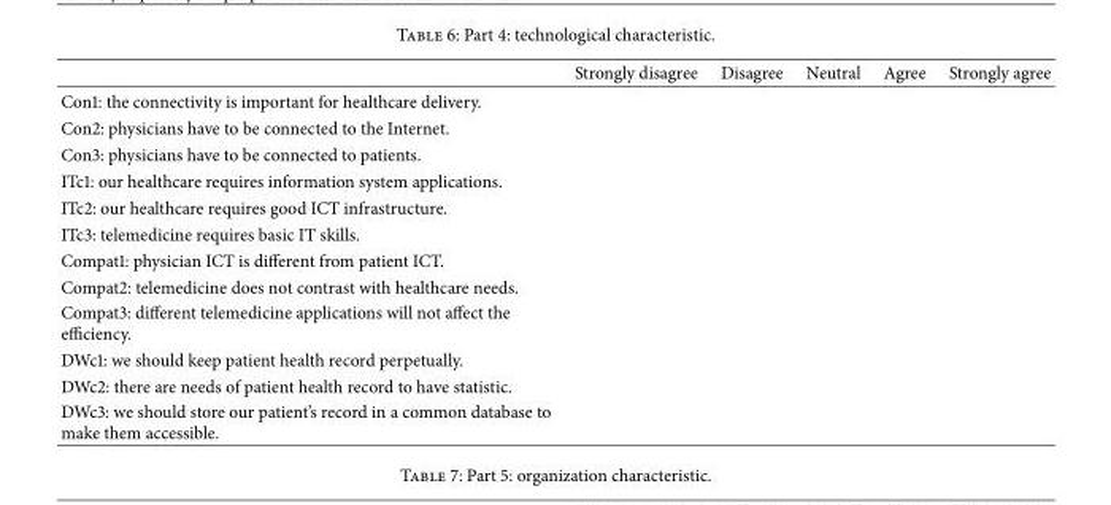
<table><thead><tr><td></td><td>Strongly disagree</td><td>Disagree</td><td>Neutral</td><td>Agree</td><td>Strongly agree</td></tr></thead><tbody><tr><td colspan="6">Con1: the connectivity is important for healthcare delivery.</td></tr><tr><td colspan="6">Con2: physicians have to be connected to the Internet.</td></tr><tr><td colspan="6">Con3: physicians have to be connected to patients.</td></tr><tr><td colspan="6">ITc1: our healthcare requires information system applications.</td></tr><tr><td colspan="6">ITc2: our healthcare requires good ICT infrastructure.</td></tr><tr><td colspan="6">ITc3: telemedicine requires basic IT skills.</td></tr><tr><td colspan="6">Compat1: physician ICT is different from patient ICT.</td></tr><tr><td colspan="6">Compat2: telemedicine does not contrast with healthcare needs.</td></tr><tr><td colspan="6">Compat3: different telemedicine applications will not affect the efficiency.</td></tr><tr><td colspan="6">DWc1: we should keep patient health record perpetually.</td></tr><tr><td colspan="6">DWc2: there are needs of patient health record to have statistic.</td></tr><tr><td>DWc3: we should store our patient’s record in a common database to make them accessible.</td><td></td><td></td><td></td><td></td><td></td></tr></tbody></table>